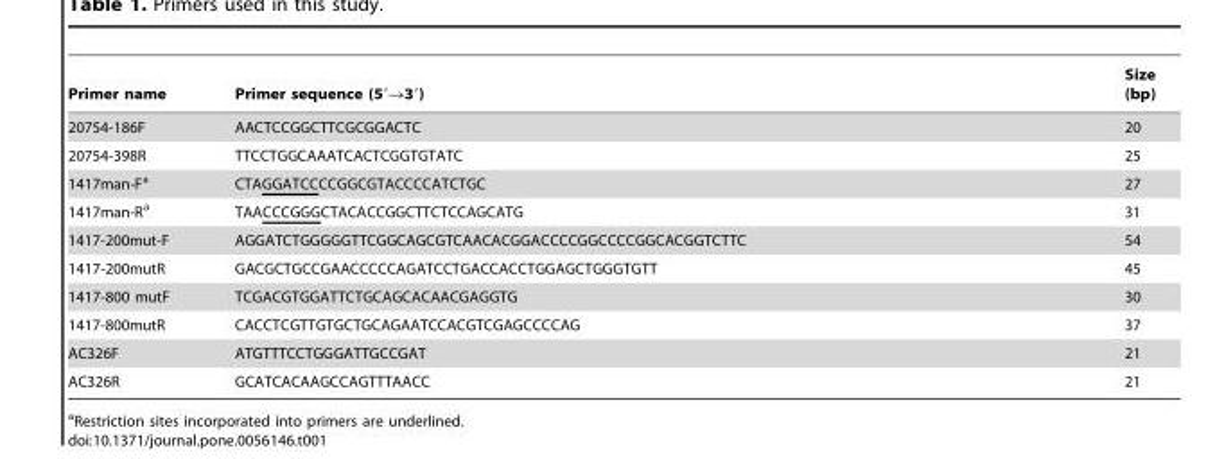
<table><thead><tr><td>Primer name</td><td>Primer sequence (5′→3′)</td><td>Size (bp)</td></tr></thead><tbody><tr><td>20754-186F</td><td>AACTCCGGCTTCGCGGACTC</td><td>20</td></tr><tr><td>20754-398R</td><td>TTCCTGGCAAATCACTCGGTGTATC</td><td>25</td></tr><tr><td>1417man-F<sup>a</sup></td><td>CTAGGATCCCCGGCGTACCCCATCTGC</td><td>27</td></tr><tr><td>1417man-R<sup>a</sup></td><td>TAACCCGGGCTACACCGGCTTCTCCAGCATG</td><td>31</td></tr><tr><td>1417-200mut-F</td><td>AGGATCTGGGGGTTCGGCAGCGTCAACACGGACCCCGGCCCCGGCACGGTCTTC</td><td>54</td></tr><tr><td>1417-200mutR</td><td>GACGCTGCCGAACCCCCAGATCCTGACCACCTGGAGCTGGGTGTT</td><td>45</td></tr><tr><td>1417-800 mutF</td><td>TCGACGTGGATTCTGCAGCACAACGAGGTG</td><td>30</td></tr><tr><td>1417-800mutR</td><td>CACCTCGTTGTGCTGCAGAATCCACGTCGAGCCCCAG</td><td>37</td></tr><tr><td>AC326F</td><td>ATGTTTCCTGGGATTGCCGAT</td><td>21</td></tr><tr><td>AC326R</td><td>GCATCACAAGCCAGTTTAACC</td><td>21</td></tr></tbody></table>